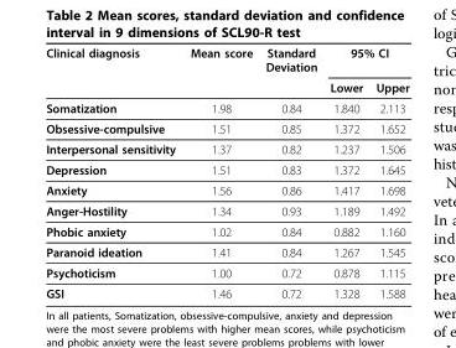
<table><thead><tr><td rowspan="2">Clinical diagnosis</td><td rowspan="2">Mean score</td><td rowspan="2">Standard Deviation</td><td colspan="2">95% CI</td></tr><tr><td>Lower</td><td>Upper</td></tr></thead><tbody><tr><td>Somatization</td><td>1.98</td><td>0.84</td><td>1.840</td><td>2.113</td></tr><tr><td>Obsessive-compulsive</td><td>1.51</td><td>0.85</td><td>1.372</td><td>1.652</td></tr><tr><td>Interpersonal sensitivity</td><td>1.37</td><td>0.82</td><td>1.237</td><td>1.506</td></tr><tr><td>Depression</td><td>1.51</td><td>0.83</td><td>1.372</td><td>1.645</td></tr><tr><td>Anxiety</td><td>1.56</td><td>0.86</td><td>1.417</td><td>1.698</td></tr><tr><td>Anger-Hostility</td><td>1.34</td><td>0.93</td><td>1.189</td><td>1.492</td></tr><tr><td>Phobic anxiety</td><td>1.02</td><td>0.84</td><td>0.882</td><td>1.160</td></tr><tr><td>Paranoid ideation</td><td>1.41</td><td>0.84</td><td>1.267</td><td>1.545</td></tr><tr><td>Psychoticism</td><td>1.00</td><td>0.72</td><td>0.878</td><td>1.115</td></tr><tr><td>GSI</td><td>1.46</td><td>0.72</td><td>1.328</td><td>1.588</td></tr></tbody></table>